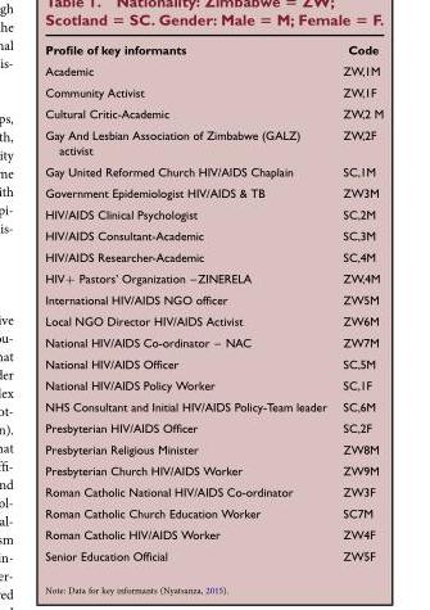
<table><thead><tr><td>Profile of key informants</td><td>Code</td></tr></thead><tbody><tr><td>Academic</td><td>ZW,1M</td></tr><tr><td>Community Activist</td><td>ZW,1F</td></tr><tr><td>Cultural Critic-Academic</td><td>ZW,2 M</td></tr><tr><td>Gay And Lesbian Association of Zimbabwe (GALZ) activist</td><td>ZW,2F</td></tr><tr><td>Gay United Reformed Church HIV/AIDS Chaplain</td><td>SC,1M</td></tr><tr><td>Government Epidemiologist HIV/AIDS &amp; TB</td><td>ZW3M</td></tr><tr><td>HIV/AIDS Clinical Psychologist</td><td>SC,2M</td></tr><tr><td>HIV/AIDS Consultant-Academic</td><td>SC,3M</td></tr><tr><td>HIV/AIDS Researcher-Academic</td><td>SC,4M</td></tr><tr><td>HIV+ Pastors’ Organization –ZINERELA</td><td>ZW,4M</td></tr><tr><td>International HIV/AIDS NGO officer</td><td>ZW5M</td></tr><tr><td>Local NGO Director HIV/AIDS Activist</td><td>ZW6M</td></tr><tr><td>National HIV/AIDS Co-ordinator – NAC</td><td>ZW7M</td></tr><tr><td>National HIV/AIDS Officer</td><td>SC,5M</td></tr><tr><td>National HIV/AIDS Policy Worker</td><td>SC,1F</td></tr><tr><td>NHS Consultant and Initial HIV/AIDS Policy-Team leader</td><td>SC,6M</td></tr><tr><td>Presbyterian HIV/AIDS Officer</td><td>SC,2F</td></tr><tr><td>Presbyterian Religious Minister</td><td>ZW8M</td></tr><tr><td>Presbyterian Church HIV/AIDS Worker</td><td>ZW9M</td></tr><tr><td>Roman Catholic National HIV/AIDS Co-ordinator</td><td>ZW3F</td></tr><tr><td>Roman Catholic Church Education Worker</td><td>SC7M</td></tr><tr><td>Roman Catholic HIV/AIDS Worker</td><td>ZW4F</td></tr><tr><td>Senior Education Official</td><td>ZW5F</td></tr></tbody></table>